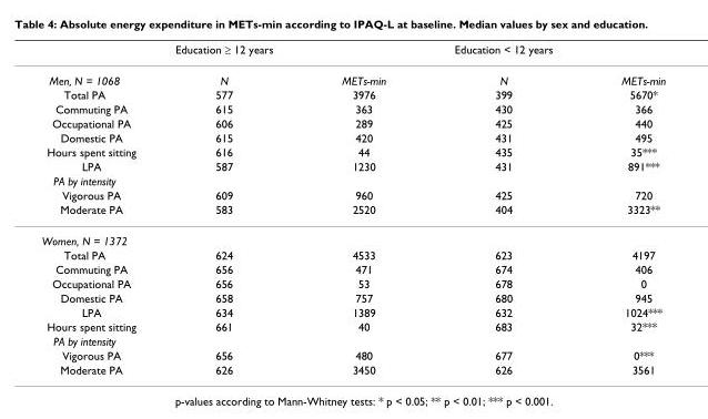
<table><thead><tr><td></td><td>Education ≥ 12 years</td><td></td><td>Education &lt; 12 years</td><td></td></tr></thead><tbody><tr><td>Men, N = 1068</td><td>N</td><td>METs-min</td><td>N</td><td>METs-min</td></tr><tr><td>Total PA</td><td>577</td><td>3976</td><td>399</td><td>5670*</td></tr><tr><td>Commuting PA</td><td>615</td><td>363</td><td>430</td><td>366</td></tr><tr><td>Occupational PA</td><td>606</td><td>289</td><td>425</td><td>440</td></tr><tr><td>Domestic PA</td><td>615</td><td>420</td><td>431</td><td>495</td></tr><tr><td>Hours spent sitting</td><td>616</td><td>44</td><td>435</td><td>35***</td></tr><tr><td>LPA</td><td>587</td><td>1230</td><td>431</td><td>891***</td></tr><tr><td colspan="5">PA by intensity</td></tr><tr><td>Vigorous PA</td><td>609</td><td>960</td><td>425</td><td>720</td></tr><tr><td>Moderate PA</td><td>583</td><td>2520</td><td>404</td><td>3323**</td></tr><tr><td colspan="5">Women, N = 1372</td></tr><tr><td>Total PA</td><td>624</td><td>4533</td><td>623</td><td>4197</td></tr><tr><td>Commuting PA</td><td>656</td><td>471</td><td>674</td><td>406</td></tr><tr><td>Occupational PA</td><td>656</td><td>53</td><td>678</td><td>0</td></tr><tr><td>Domestic PA</td><td>658</td><td>757</td><td>680</td><td>945</td></tr><tr><td>LPA</td><td>634</td><td>1389</td><td>632</td><td>1024***</td></tr><tr><td>Hours spent sitting</td><td>661</td><td>40</td><td>683</td><td>32***</td></tr><tr><td colspan="5">PA by intensity</td></tr><tr><td>Vigorous PA</td><td>656</td><td>480</td><td>677</td><td>0***</td></tr><tr><td>Moderate PA</td><td>626</td><td>3450</td><td>626</td><td>3561</td></tr></tbody></table>